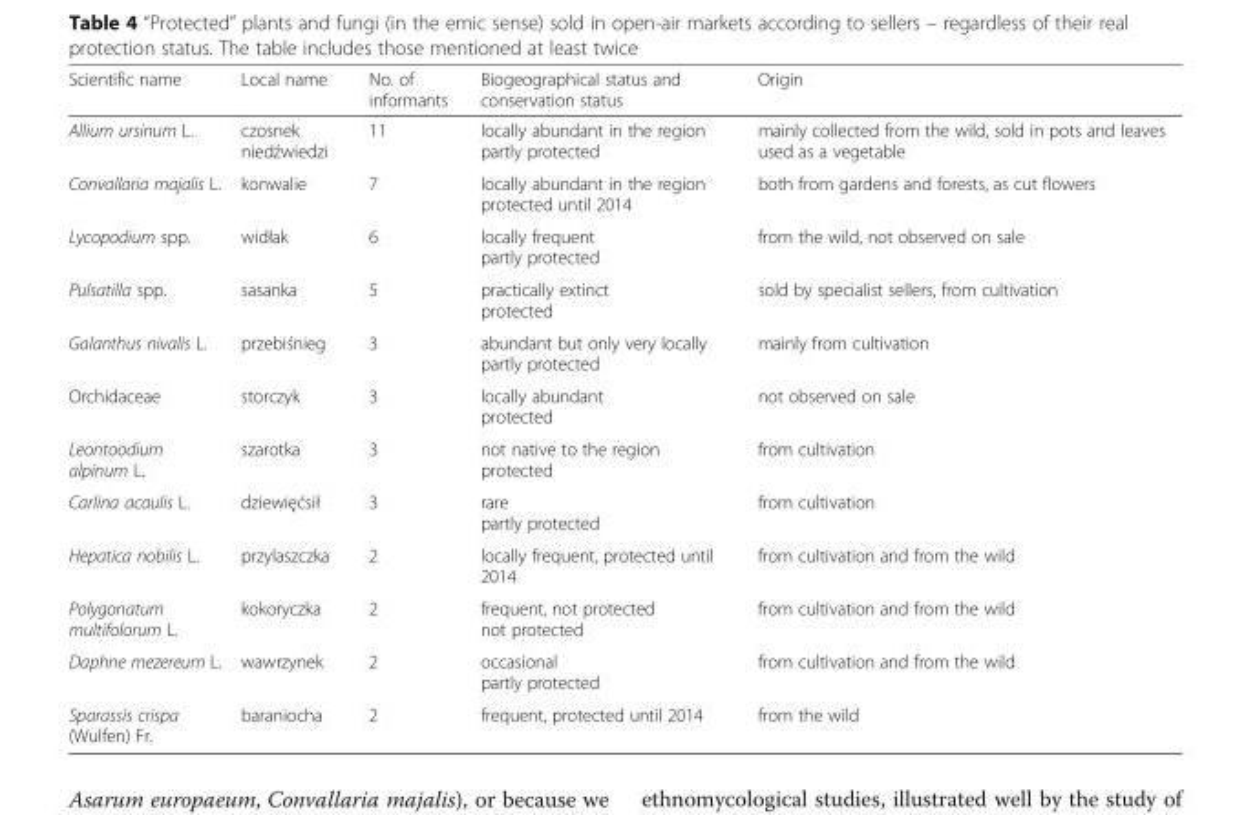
<table><thead><tr><td>Scientific name</td><td>Local name</td><td>No. of informants</td><td>Biogeographical status and conservation status</td><td>Origin</td></tr></thead><tbody><tr><td>Allium ursinum L.</td><td>czosnek niedźwiedzi</td><td>11</td><td>locally abundant in the region partly protected</td><td>mainly collected from the wild, sold in pots and leaves used as a vegetable</td></tr><tr><td>Convallaria majalis L.</td><td>konwalie</td><td>7</td><td>locally abundant in the region protected until 2014</td><td>both from gardens and forests, as cut flowers</td></tr><tr><td>Lycopodium spp.</td><td>widłak</td><td>6</td><td>locally frequent partly protected</td><td>from the wild, not observed on sale</td></tr><tr><td>Pulsatilla spp.</td><td>sasanka</td><td>5</td><td>practically extinct protected</td><td>sold by specialist sellers, from cultivation</td></tr><tr><td>Galanthus nivalis L.</td><td>przebiśnieg</td><td>3</td><td>abundant but only very locally partly protected</td><td>mainly from cultivation</td></tr><tr><td>Orchidaceae</td><td>storczyk</td><td>3</td><td>locally abundant protected</td><td>not observed on sale</td></tr><tr><td>Leontoodium alpinum L.</td><td>szarotka</td><td>3</td><td>not native to the region protected</td><td>from cultivation</td></tr><tr><td>Carlina acaulis L.</td><td>dziewięćsił</td><td>3</td><td>rare partly protected</td><td>from cultivation</td></tr><tr><td>Hepatica nobilis L.</td><td>przylaszczka</td><td>2</td><td>locally frequent, protected until 2014</td><td>from cultivation and from the wild</td></tr><tr><td>Polygonatum multifolorum L.</td><td>kokoryczka</td><td>2</td><td>frequent, not protected not protected</td><td>from cultivation and from the wild</td></tr><tr><td>Daphne mezereum L.</td><td>wawrzynek</td><td>2</td><td>occasional partly protected</td><td>from cultivation and from the wild</td></tr><tr><td>Sparassis crispa (Wulfen) Fr.</td><td>baraniocha</td><td>2</td><td>frequent, protected until 2014</td><td>from the wild</td></tr></tbody></table>